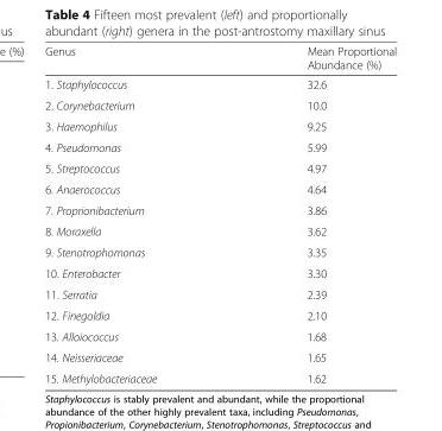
<table><thead><tr><td>Genus</td><td>Mean Proportional Abundance (%)</td></tr></thead><tbody><tr><td>1. Staphylococcus</td><td>32.6</td></tr><tr><td>2. Corynebacterium</td><td>10.0</td></tr><tr><td>3. Haemophilus</td><td>9.25</td></tr><tr><td>4. Pseudomonas</td><td>5.99</td></tr><tr><td>5. Streptococcus</td><td>4.97</td></tr><tr><td>6. Anaerococcus</td><td>4.64</td></tr><tr><td>7. Proprionibacterium</td><td>3.86</td></tr><tr><td>8. Moraxella</td><td>3.62</td></tr><tr><td>9. Stenotrophomonas</td><td>3.35</td></tr><tr><td>10. Enterobacter</td><td>3.30</td></tr><tr><td>11. Serratia</td><td>2.39</td></tr><tr><td>12. Finegoldia</td><td>2.10</td></tr><tr><td>13. Alloiococcus</td><td>1.68</td></tr><tr><td>14. Neisseriaceae</td><td>1.65</td></tr><tr><td>15. Methylobacteriaceae</td><td>1.62</td></tr></tbody></table>